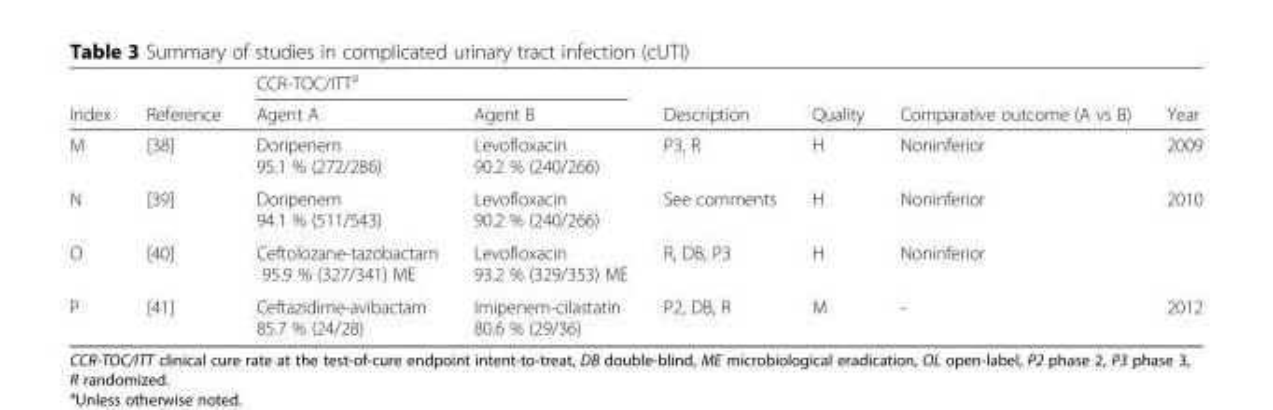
<table><thead><tr><td rowspan="2">Index</td><td rowspan="2">Reference</td><td colspan="2">CCR-TOC/ITT<sup>a</sup></td><td rowspan="2">Description</td><td rowspan="2">Quality</td><td rowspan="2">Comparative outcome (A vs B)</td><td rowspan="2">Year</td></tr><tr><td>Agent A</td><td>Agent B</td></tr></thead><tbody><tr><td>M</td><td>[38]</td><td>Doripenem 95.1 % (272/286)</td><td>Levofloxacin 90.2 % (240/266)</td><td>P3, R</td><td>H</td><td>Noninferior</td><td>2009</td></tr><tr><td>N</td><td>[39]</td><td>Doripenem 94.1 % (511/543)</td><td>Levofloxacin 90.2 % (240/266)</td><td>See comments</td><td>H</td><td>Noninferior</td><td>2010</td></tr><tr><td>O</td><td>[40]</td><td>Ceftolozane-tazobactam 95.9 % (327/341) ME</td><td>Levofloxacin 93.2 % (329/353) ME</td><td>R, DB, P3</td><td>H</td><td>Noninferior</td><td></td></tr><tr><td>P</td><td>[41]</td><td>Ceftazidime-avibactam 85.7 % (24/28)</td><td>Imipenem-cilastatin 80.6 % (29/36)</td><td>P2, DB, R</td><td>M</td><td>-</td><td>2012</td></tr></tbody></table>